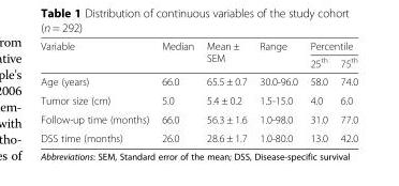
<table><thead><tr><td rowspan="2">Variable</td><td rowspan="2">Median</td><td rowspan="2">Mean ± SEM</td><td rowspan="2">Range</td><td colspan="2">Percentile</td></tr><tr><td>25<sup>th</sup></td><td>75<sup>th</sup></td></tr></thead><tbody><tr><td>Age (years)</td><td>66.0</td><td>65.5 ± 0.7</td><td>30.0-96.0</td><td>58.0</td><td>74.0</td></tr><tr><td>Tumor size (cm)</td><td>5.0</td><td>5.4 ± 0.2</td><td>1.5-15.0</td><td>4.0</td><td>6.0</td></tr><tr><td>Follow-up time (months)</td><td>66.0</td><td>56.3 ± 1.6</td><td>1.0-98.0</td><td>31.0</td><td>77.0</td></tr><tr><td>DSS time (months)</td><td>26.0</td><td>28.6 ± 1.7</td><td>1.0-80.0</td><td>13.0</td><td>42.0</td></tr></tbody></table>